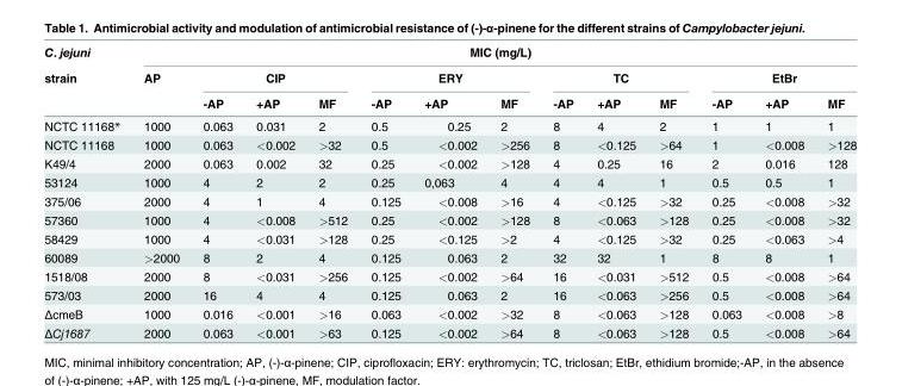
<table><thead><tr><td rowspan="3">C. jejuni strain</td><td colspan="13">MIC (mg/L)</td></tr><tr><td rowspan="2">AP</td><td colspan="3">CIP</td><td colspan="3">ERY</td><td colspan="3">TC</td><td colspan="3">EtBr</td></tr><tr><td>-AP</td><td>+AP</td><td>MF</td><td>-AP</td><td>+AP</td><td>MF</td><td>-AP</td><td>+AP</td><td>MF</td><td>-AP</td><td>+AP</td><td>MF</td></tr></thead><tbody><tr><td>NCTC 11168*</td><td>1000</td><td>0.063</td><td>0.031</td><td>2</td><td>0.5</td><td>0.25</td><td>2</td><td>8</td><td>4</td><td>2</td><td>1</td><td>1</td><td>1</td></tr><tr><td>NCTC 11168</td><td>1000</td><td>0.063</td><td>&lt;0.002</td><td>&gt;32</td><td>0.5</td><td>&lt;0.002</td><td>&gt;256</td><td>8</td><td>&lt;0.125</td><td>&gt;64</td><td>1</td><td>&lt;0.008</td><td>&gt;128</td></tr><tr><td>K49/4</td><td>2000</td><td>0.063</td><td>0.002</td><td>32</td><td>0.25</td><td>&lt;0.002</td><td>&gt;128</td><td>4</td><td>0.25</td><td>16</td><td>2</td><td>0.016</td><td>128</td></tr><tr><td>53124</td><td>1000</td><td>4</td><td>2</td><td>2</td><td>0.25</td><td>0,063</td><td>4</td><td>4</td><td>4</td><td>1</td><td>0.5</td><td>0.5</td><td>1</td></tr><tr><td>375/06</td><td>2000</td><td>4</td><td>1</td><td>4</td><td>0.125</td><td>&lt;0.008</td><td>&gt;16</td><td>4</td><td>&lt;0.125</td><td>&gt;32</td><td>0.25</td><td>&lt;0.008</td><td>&gt;32</td></tr><tr><td>57360</td><td>1000</td><td>4</td><td>&lt;0.008</td><td>&gt;512</td><td>0.25</td><td>&lt;0.002</td><td>&gt;128</td><td>8</td><td>&lt;0.063</td><td>&gt;128</td><td>0.25</td><td>&lt;0.008</td><td>&gt;32</td></tr><tr><td>58429</td><td>1000</td><td>4</td><td>&lt;0.031</td><td>&gt;128</td><td>0.25</td><td>&lt;0.125</td><td>&gt;2</td><td>4</td><td>&lt;0.125</td><td>&gt;32</td><td>0.25</td><td>&lt;0.063</td><td>&gt;4</td></tr><tr><td>60089</td><td>&gt;2000</td><td>8</td><td>2</td><td>4</td><td>0.125</td><td>0.063</td><td>2</td><td>32</td><td>32</td><td>1</td><td>8</td><td>8</td><td>1</td></tr><tr><td>1518/08</td><td>2000</td><td>8</td><td>&lt;0.031</td><td>&gt;256</td><td>0.125</td><td>&lt;0.002</td><td>&gt;64</td><td>16</td><td>&lt;0.031</td><td>&gt;512</td><td>0.5</td><td>&lt;0.008</td><td>&gt;64</td></tr><tr><td>573/03</td><td>2000</td><td>16</td><td>4</td><td>4</td><td>0.125</td><td>0.063</td><td>2</td><td>16</td><td>&lt;0.063</td><td>&gt;256</td><td>0.5</td><td>&lt;0.008</td><td>&gt;64</td></tr><tr><td>ΔcmeB</td><td>1000</td><td>0.016</td><td>&lt;0.001</td><td>&gt;16</td><td>0.063</td><td>&lt;0.002</td><td>&gt;32</td><td>8</td><td>&lt;0.063</td><td>&gt;128</td><td>0.063</td><td>&lt;0.008</td><td>&gt;8</td></tr><tr><td>ΔCj1687</td><td>2000</td><td>0.063</td><td>&lt;0.001</td><td>&gt;63</td><td>0.125</td><td>&lt;0.002</td><td>&gt;64</td><td>8</td><td>&lt;0.063</td><td>&gt;128</td><td>0.5</td><td>&lt;0.008</td><td>&gt;64</td></tr></tbody></table>